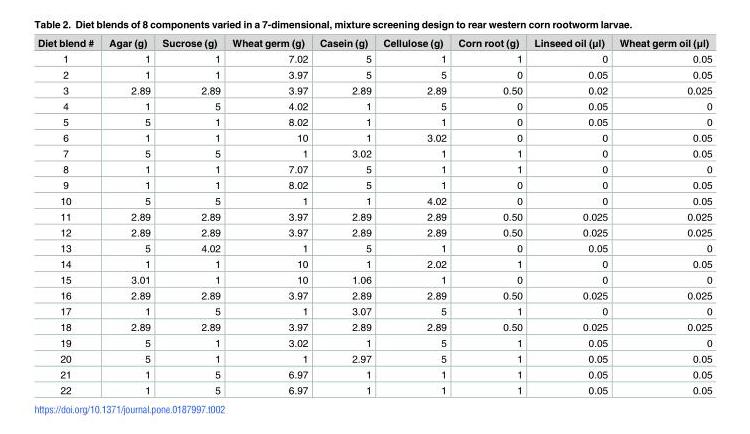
<table><thead><tr><td>Diet blend #</td><td>Agar (g)</td><td>Sucrose (g)</td><td>Wheat germ (g)</td><td>Casein (g)</td><td>Cellulose (g)</td><td>Corn root (g)</td><td>Linseed oil (μl)</td><td>Wheat germ oil (μl)</td></tr></thead><tbody><tr><td>1</td><td>1</td><td>1</td><td>7.02</td><td>5</td><td>1</td><td>1</td><td>0</td><td>0.05</td></tr><tr><td>2</td><td>1</td><td>1</td><td>3.97</td><td>5</td><td>5</td><td>0</td><td>0.05</td><td>0.05</td></tr><tr><td>3</td><td>2.89</td><td>2.89</td><td>3.97</td><td>2.89</td><td>2.89</td><td>0.50</td><td>0.02</td><td>0.025</td></tr><tr><td>4</td><td>1</td><td>5</td><td>4.02</td><td>1</td><td>5</td><td>0</td><td>0.05</td><td>0</td></tr><tr><td>5</td><td>5</td><td>1</td><td>8.02</td><td>1</td><td>1</td><td>0</td><td>0.05</td><td>0</td></tr><tr><td>6</td><td>1</td><td>1</td><td>10</td><td>1</td><td>3.02</td><td>0</td><td>0</td><td>0.05</td></tr><tr><td>7</td><td>5</td><td>5</td><td>1</td><td>3.02</td><td>1</td><td>1</td><td>0</td><td>0.05</td></tr><tr><td>8</td><td>1</td><td>1</td><td>7.07</td><td>5</td><td>1</td><td>1</td><td>0</td><td>0</td></tr><tr><td>9</td><td>1</td><td>1</td><td>8.02</td><td>5</td><td>1</td><td>0</td><td>0</td><td>0.05</td></tr><tr><td>10</td><td>5</td><td>5</td><td>1</td><td>1</td><td>4.02</td><td>0</td><td>0</td><td>0.05</td></tr><tr><td>11</td><td>2.89</td><td>2.89</td><td>3.97</td><td>2.89</td><td>2.89</td><td>0.50</td><td>0.025</td><td>0.025</td></tr><tr><td>12</td><td>2.89</td><td>2.89</td><td>3.97</td><td>2.89</td><td>2.89</td><td>0.50</td><td>0.025</td><td>0.025</td></tr><tr><td>13</td><td>5</td><td>4.02</td><td>1</td><td>5</td><td>1</td><td>0</td><td>0.05</td><td>0</td></tr><tr><td>14</td><td>1</td><td>1</td><td>10</td><td>1</td><td>2.02</td><td>1</td><td>0</td><td>0.05</td></tr><tr><td>15</td><td>3.01</td><td>1</td><td>10</td><td>1.06</td><td>1</td><td>0</td><td>0</td><td>0</td></tr><tr><td>16</td><td>2.89</td><td>2.89</td><td>3.97</td><td>2.89</td><td>2.89</td><td>0.50</td><td>0.025</td><td>0.025</td></tr><tr><td>17</td><td>1</td><td>5</td><td>1</td><td>3.07</td><td>5</td><td>1</td><td>0</td><td>0</td></tr><tr><td>18</td><td>2.89</td><td>2.89</td><td>3.97</td><td>2.89</td><td>2.89</td><td>0.50</td><td>0.025</td><td>0.025</td></tr><tr><td>19</td><td>5</td><td>1</td><td>3.02</td><td>1</td><td>5</td><td>1</td><td>0.05</td><td>0</td></tr><tr><td>20</td><td>5</td><td>1</td><td>1</td><td>2.97</td><td>5</td><td>1</td><td>0.05</td><td>0.05</td></tr><tr><td>21</td><td>1</td><td>5</td><td>6.97</td><td>1</td><td>1</td><td>1</td><td>0.05</td><td>0.05</td></tr><tr><td>22</td><td>1</td><td>5</td><td>6.97</td><td>1</td><td>1</td><td>1</td><td>0.05</td><td>0.05</td></tr></tbody></table>